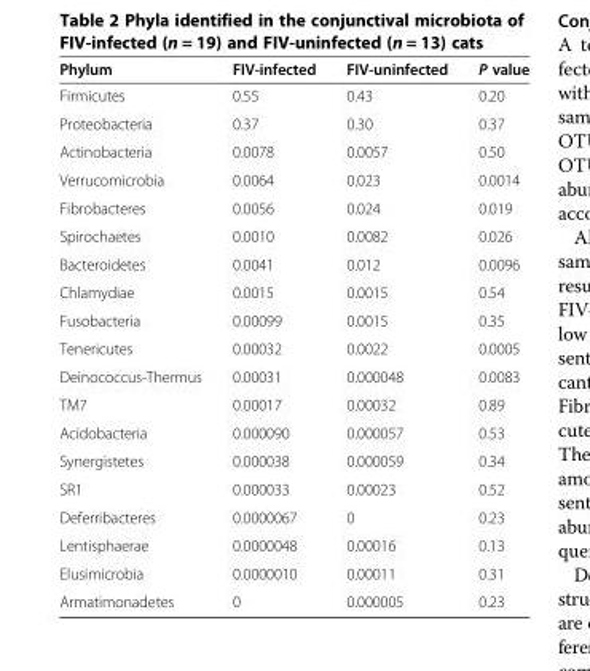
<table><thead><tr><td>Phylum</td><td>FIV-infected</td><td>FIV-uninfected</td><td>P value</td></tr></thead><tbody><tr><td>Firmicutes</td><td>0.55</td><td>0.43</td><td>0.20</td></tr><tr><td>Proteobacteria</td><td>0.37</td><td>0.30</td><td>0.37</td></tr><tr><td>Actinobacteria</td><td>0.0078</td><td>0.0057</td><td>0.50</td></tr><tr><td>Verrucomicrobia</td><td>0.0064</td><td>0.023</td><td>0.0014</td></tr><tr><td>Fibrobacteres</td><td>0.0056</td><td>0.024</td><td>0.019</td></tr><tr><td>Spirochaetes</td><td>0.0010</td><td>0.0082</td><td>0.026</td></tr><tr><td>Bacteroidetes</td><td>0.0041</td><td>0.012</td><td>0.0096</td></tr><tr><td>Chlamydiae</td><td>0.0015</td><td>0.0015</td><td>0.54</td></tr><tr><td>Fusobacteria</td><td>0.00099</td><td>0.0015</td><td>0.35</td></tr><tr><td>Tenericutes</td><td>0.00032</td><td>0.0022</td><td>0.0005</td></tr><tr><td>Deinococcus-Thermus</td><td>0.00031</td><td>0.000048</td><td>0.0083</td></tr><tr><td>TM7</td><td>0.00017</td><td>0.00032</td><td>0.89</td></tr><tr><td>Acidobacteria</td><td>0.000090</td><td>0.000057</td><td>0.53</td></tr><tr><td>Synergistetes</td><td>0.000038</td><td>0.000059</td><td>0.34</td></tr><tr><td>SR1</td><td>0.000033</td><td>0.00023</td><td>0.52</td></tr><tr><td>Deferribacteres</td><td>0.0000067</td><td>0</td><td>0.23</td></tr><tr><td>Lentisphaerae</td><td>0.0000048</td><td>0.00016</td><td>0.13</td></tr><tr><td>Elusimicrobia</td><td>0.0000010</td><td>0.00011</td><td>0.31</td></tr><tr><td>Armatimonadetes</td><td>0</td><td>0.000005</td><td>0.23</td></tr></tbody></table>